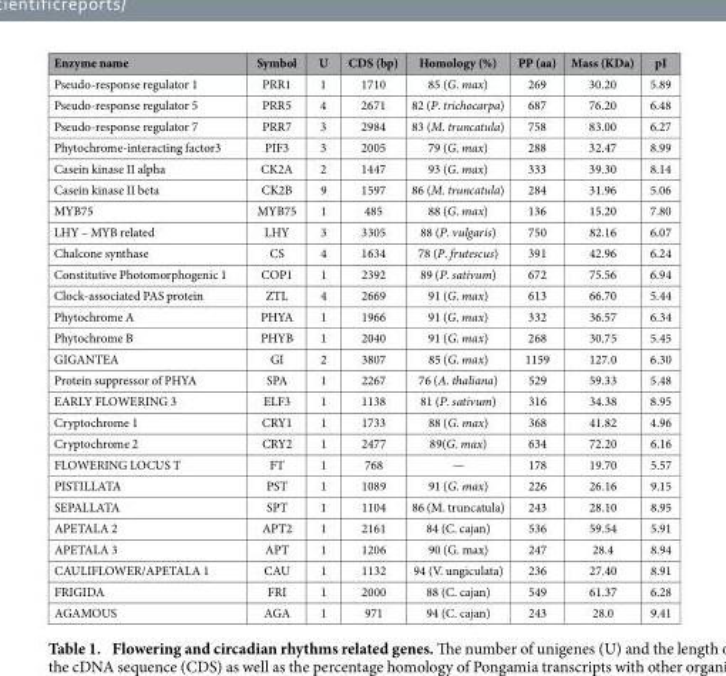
<table><thead><tr><td>Enzyme name</td><td>Symbol</td><td>U</td><td>CDS (bp)</td><td>Homology (%)</td><td>PP (aa)</td><td>Mass (KDa)</td><td>pI</td></tr></thead><tbody><tr><td>Pseudo-response regulator 1</td><td>PRR1</td><td>1</td><td>1710</td><td>85 (G. max)</td><td>269</td><td>30.20</td><td>5.89</td></tr><tr><td>Pseudo-response regulator 5</td><td>PRR5</td><td>4</td><td>2671</td><td>82 (P. trichocarpa)</td><td>687</td><td>76.20</td><td>6.48</td></tr><tr><td>Pseudo-response regulator 7</td><td>PRR7</td><td>3</td><td>2984</td><td>83 (M. truncatula)</td><td>758</td><td>83.00</td><td>6.27</td></tr><tr><td>Phytochrome-interacting factor3</td><td>PIF3</td><td>3</td><td>2005</td><td>79 (G. max)</td><td>288</td><td>32.47</td><td>8.99</td></tr><tr><td>Casein kinase II alpha</td><td>CK2A</td><td>2</td><td>1447</td><td>93 (G. max)</td><td>333</td><td>39.30</td><td>8.14</td></tr><tr><td>Casein kinase II beta</td><td>CK2B</td><td>9</td><td>1597</td><td>86 (M. truncatula)</td><td>284</td><td>31.96</td><td>5.06</td></tr><tr><td>MYB75</td><td>MYB75</td><td>1</td><td>485</td><td>88 (G. max)</td><td>136</td><td>15.20</td><td>7.80</td></tr><tr><td>LHY – MYB related</td><td>LHY</td><td>3</td><td>3305</td><td>88 (P. vulgaris)</td><td>750</td><td>82.16</td><td>6.07</td></tr><tr><td>Chalcone synthase</td><td>CS</td><td>4</td><td>1634</td><td>78 (P. frutescus)</td><td>391</td><td>42.96</td><td>6.24</td></tr><tr><td>Constitutive Photomorphogenic 1</td><td>COP1</td><td>1</td><td>2392</td><td>89 (P. sativum)</td><td>672</td><td>75.56</td><td>6.94</td></tr><tr><td>Clock-associated PAS protein</td><td>ZTL</td><td>4</td><td>2669</td><td>91 (G. max)</td><td>613</td><td>66.70</td><td>5.44</td></tr><tr><td>Phytochrome A</td><td>PHYA</td><td>1</td><td>1966</td><td>91 (G. max)</td><td>332</td><td>36.57</td><td>6.34</td></tr><tr><td>Phytochrome B</td><td>PHYB</td><td>1</td><td>2040</td><td>91 (G. max)</td><td>268</td><td>30.75</td><td>5.45</td></tr><tr><td>GIGANTEA</td><td>GI</td><td>2</td><td>3807</td><td>85 (G. max)</td><td>1159</td><td>127.0</td><td>6.30</td></tr><tr><td>Protein suppressor of PHYA</td><td>SPA</td><td>1</td><td>2267</td><td>76 (A. thaliana)</td><td>529</td><td>59.33</td><td>5.48</td></tr><tr><td>EARLY FLOWERING 3</td><td>ELF3</td><td>1</td><td>1138</td><td>81 (P. sativum)</td><td>316</td><td>34.38</td><td>8.95</td></tr><tr><td>Cryptochrome 1</td><td>CRY1</td><td>1</td><td>1733</td><td>88 (G. max)</td><td>368</td><td>41.82</td><td>4.96</td></tr><tr><td>Cryptochrome 2</td><td>CRY2</td><td>1</td><td>2477</td><td>89(G. max)</td><td>634</td><td>72.20</td><td>6.16</td></tr><tr><td>FLOWERING LOCUS T</td><td>FT</td><td>1</td><td>768</td><td>—</td><td>178</td><td>19.70</td><td>5.57</td></tr><tr><td>PISTILLATA</td><td>PST</td><td>1</td><td>1089</td><td>91 (G. max)</td><td>226</td><td>26.16</td><td>9.15</td></tr><tr><td>SEPALLATA</td><td>SPT</td><td>1</td><td>1104</td><td>86 (M. truncatula)</td><td>243</td><td>28.10</td><td>8.95</td></tr><tr><td>APETALA 2</td><td>APT2</td><td>1</td><td>2161</td><td>84 (C. cajan)</td><td>536</td><td>59.54</td><td>5.91</td></tr><tr><td>APETALA 3</td><td>APT</td><td>1</td><td>1206</td><td>90 (G. max)</td><td>247</td><td>28.4</td><td>8.94</td></tr><tr><td>CAULIFLOWER/APETALA 1</td><td>CAU</td><td>1</td><td>1132</td><td>94 (V. ungiculata)</td><td>236</td><td>27.40</td><td>8.91</td></tr><tr><td>FRIGIDA</td><td>FRI</td><td>1</td><td>2000</td><td>88 (C. cajan)</td><td>549</td><td>61.37</td><td>6.28</td></tr><tr><td>AGAMOUS</td><td>AGA</td><td>1</td><td>971</td><td>94 (C. cajan)</td><td>243</td><td>28.0</td><td>9.41</td></tr></tbody></table>